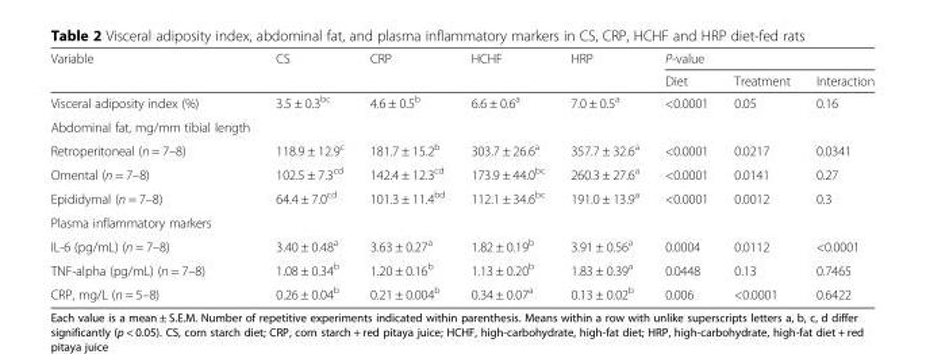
<table><thead><tr><td rowspan="2">Variable</td><td rowspan="2">CS</td><td rowspan="2">CRP</td><td rowspan="2">HCHF</td><td rowspan="2">HRP</td><td colspan="3">P-value</td></tr><tr><td>Diet</td><td>Treatment</td><td>Interaction</td></tr></thead><tbody><tr><td>Visceral adiposity index (%)</td><td>3.5 ± 0.3<sup>bc</sup></td><td>4.6 ± 0.5<sup>b</sup></td><td>6.6 ± 0.6<sup>a</sup></td><td>7.0 ± 0.5<sup>a</sup></td><td>&lt;0.0001</td><td>0.05</td><td>0.16</td></tr><tr><td colspan="8">Abdominal fat, mg/mm tibial length</td></tr><tr><td>Retroperitoneal (n = 7–8)</td><td>118.9 ± 12.9<sup>c</sup></td><td>181.7 ± 15.2<sup>b</sup></td><td>303.7 ± 26.6<sup>a</sup></td><td>357.7 ± 32.6<sup>a</sup></td><td>&lt;0.0001</td><td>0.0217</td><td>0.0341</td></tr><tr><td>Omental (n = 7–8)</td><td>102.5 ± 7.3<sup>cd</sup></td><td>142.4 ± 12.3<sup>cd</sup></td><td>173.9 ± 44.0<sup>bc</sup></td><td>260.3 ± 27.6<sup>a</sup></td><td>&lt;0.0001</td><td>0.0141</td><td>0.27</td></tr><tr><td>Epididymal (n = 7–8)</td><td>64.4 ± 7.0<sup>cd</sup></td><td>101.3 ± 11.4<sup>bd</sup></td><td>112.1 ± 34.6<sup>bc</sup></td><td>191.0 ± 13.9<sup>a</sup></td><td>&lt;0.0001</td><td>0.0012</td><td>0.3</td></tr><tr><td colspan="8">Plasma inflammatory markers</td></tr><tr><td>IL-6 (pg/mL) (n = 7–8)</td><td>3.40 ± 0.48<sup>a</sup></td><td>3.63 ± 0.27<sup>a</sup></td><td>1.82 ± 0.19<sup>b</sup></td><td>3.91 ± 0.56<sup>a</sup></td><td>0.0004</td><td>0.0112</td><td>&lt;0.0001</td></tr><tr><td>TNF-alpha (pg/mL) (n = 7–8)</td><td>1.08 ± 0.34<sup>b</sup></td><td>1.20 ± 0.16<sup>b</sup></td><td>1.13 ± 0.20<sup>b</sup></td><td>1.83 ± 0.39<sup>a</sup></td><td>0.0448</td><td>0.13</td><td>0.7465</td></tr><tr><td>CRP, mg/L (n = 5–8)</td><td>0.26 ± 0.04<sup>b</sup></td><td>0.21 ± 0.004<sup>b</sup></td><td>0.34 ± 0.07<sup>a</sup></td><td>0.13 ± 0.02<sup>b</sup></td><td>0.006</td><td>&lt;0.0001</td><td>0.6422</td></tr></tbody></table>